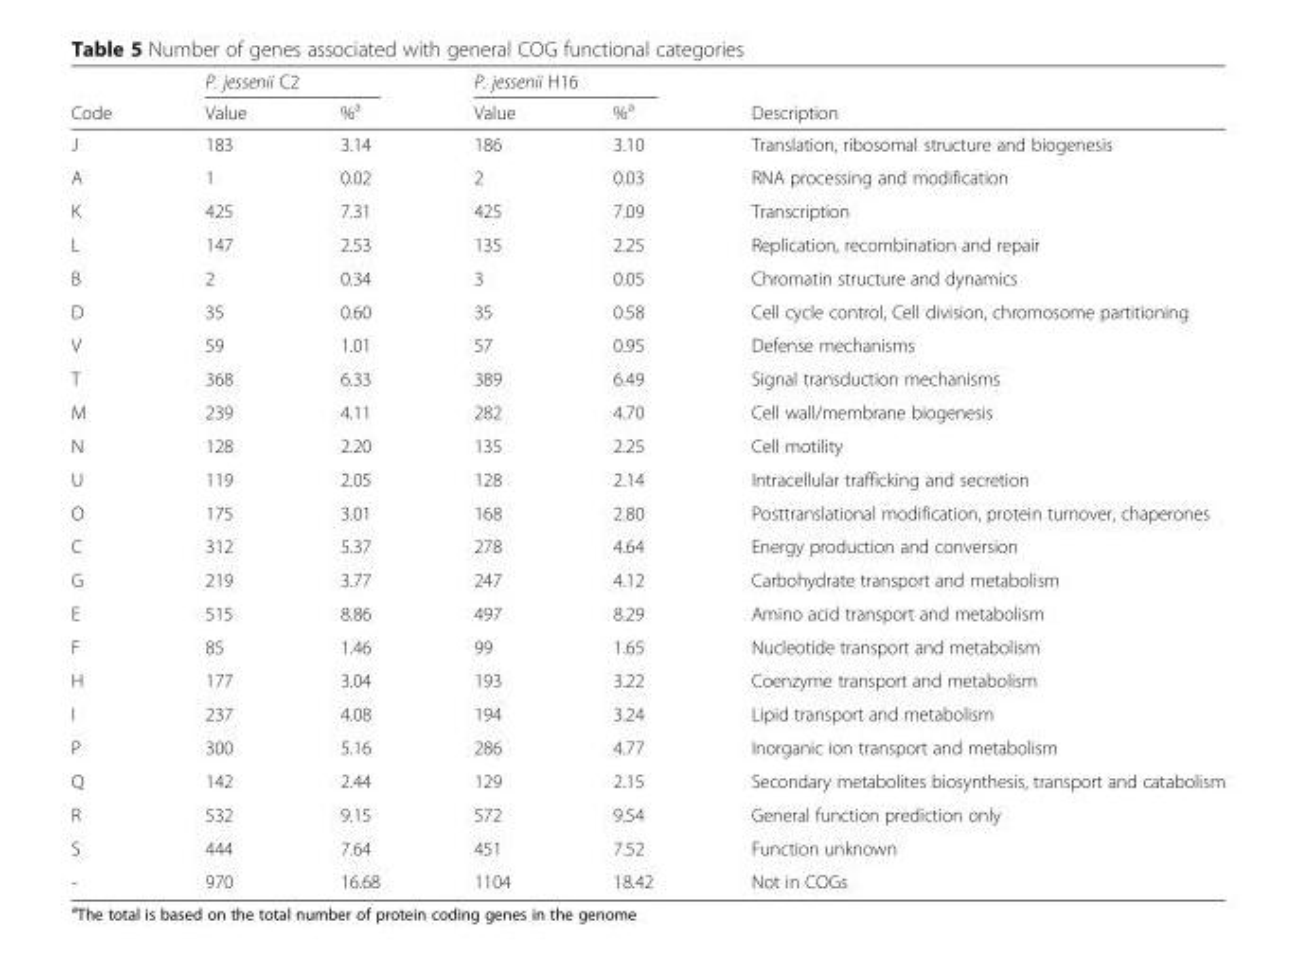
<table><thead><tr><td rowspan="2">Code</td><td colspan="2">P. jessenii C2</td><td colspan="2">P. jessenii H16</td><td rowspan="2">Description</td></tr><tr><td>Value</td><td>%<sup>a</sup></td><td>Value</td><td>%<sup>a</sup></td></tr></thead><tbody><tr><td>J</td><td>183</td><td>3.14</td><td>186</td><td>3.10</td><td>Translation, ribosomal structure and biogenesis</td></tr><tr><td>A</td><td>1</td><td>0.02</td><td>2</td><td>0.03</td><td>RNA processing and modification</td></tr><tr><td>K</td><td>425</td><td>7.31</td><td>425</td><td>7.09</td><td>Transcription</td></tr><tr><td>L</td><td>147</td><td>2.53</td><td>135</td><td>2.25</td><td>Replication, recombination and repair</td></tr><tr><td>B</td><td>2</td><td>0.34</td><td>3</td><td>0.05</td><td>Chromatin structure and dynamics</td></tr><tr><td>D</td><td>35</td><td>0.60</td><td>35</td><td>0.58</td><td>Cell cycle control, Cell division, chromosome partitioning</td></tr><tr><td>V</td><td>59</td><td>1.01</td><td>57</td><td>0.95</td><td>Defense mechanisms</td></tr><tr><td>T</td><td>368</td><td>6.33</td><td>389</td><td>6.49</td><td>Signal transduction mechanisms</td></tr><tr><td>M</td><td>239</td><td>4.11</td><td>282</td><td>4.70</td><td>Cell wall/membrane biogenesis</td></tr><tr><td>N</td><td>128</td><td>2.20</td><td>135</td><td>2.25</td><td>Cell motility</td></tr><tr><td>U</td><td>119</td><td>2.05</td><td>128</td><td>2.14</td><td>Intracellular trafficking and secretion</td></tr><tr><td>O</td><td>175</td><td>3.01</td><td>168</td><td>2.80</td><td>Posttranslational modification, protein turnover, chaperones</td></tr><tr><td>C</td><td>312</td><td>5.37</td><td>278</td><td>4.64</td><td>Energy production and conversion</td></tr><tr><td>G</td><td>219</td><td>3.77</td><td>247</td><td>4.12</td><td>Carbohydrate transport and metabolism</td></tr><tr><td>E</td><td>515</td><td>8.86</td><td>497</td><td>8.29</td><td>Amino acid transport and metabolism</td></tr><tr><td>F</td><td>85</td><td>1.46</td><td>99</td><td>1.65</td><td>Nucleotide transport and metabolism</td></tr><tr><td>H</td><td>177</td><td>3.04</td><td>193</td><td>3.22</td><td>Coenzyme transport and metabolism</td></tr><tr><td>I</td><td>237</td><td>4.08</td><td>194</td><td>3.24</td><td>Lipid transport and metabolism</td></tr><tr><td>P</td><td>300</td><td>5.16</td><td>286</td><td>4.77</td><td>Inorganic ion transport and metabolism</td></tr><tr><td>Q</td><td>142</td><td>2.44</td><td>129</td><td>2.15</td><td>Secondary metabolites biosynthesis, transport and catabolism</td></tr><tr><td>R</td><td>532</td><td>9.15</td><td>572</td><td>9.54</td><td>General function prediction only</td></tr><tr><td>S</td><td>444</td><td>7.64</td><td>451</td><td>7.52</td><td>Function unknown</td></tr><tr><td>-</td><td>970</td><td>16.68</td><td>1104</td><td>18.42</td><td>Not in COGs</td></tr></tbody></table>